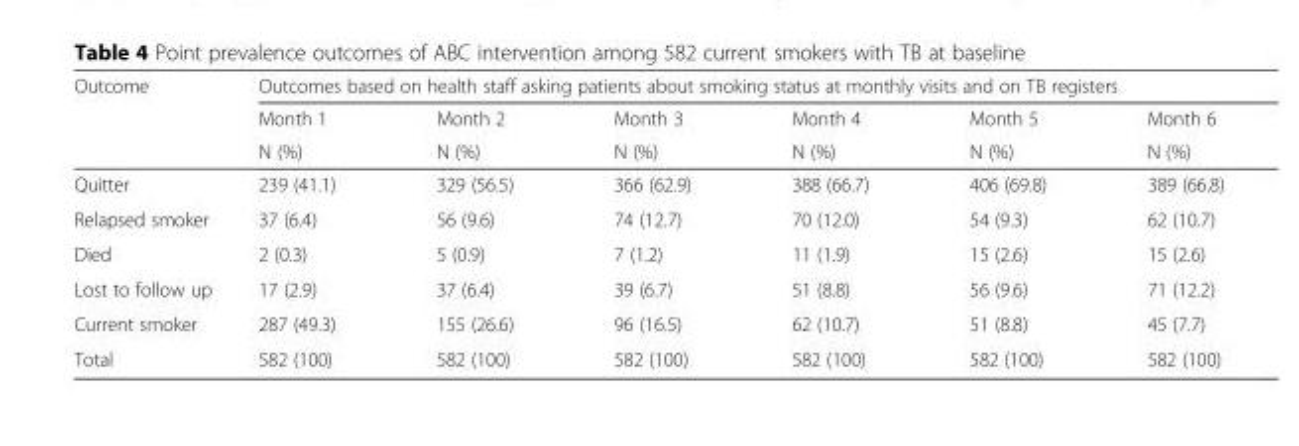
<table><thead><tr><td rowspan="3">Outcome</td><td colspan="6">Outcomes based on health staff asking patients about smoking status at monthly visits and on TB registers</td></tr><tr><td rowspan="2">Month 1 N (%)</td><td rowspan="2">Month 2 N (%)</td><td rowspan="2">Month 3 N (%)</td><td rowspan="2">Month 4 N (%)</td><td rowspan="2">Month 5 N (%)</td><td rowspan="2">Month 6 N (%)</td></tr><tr></tr></thead><tbody><tr><td>Quitter</td><td>239 (41.1)</td><td>329 (56.5)</td><td>366 (62.9)</td><td>388 (66.7)</td><td>406 (69.8)</td><td>389 (66.8)</td></tr><tr><td>Relapsed smoker</td><td>37 (6.4)</td><td>56 (9.6)</td><td>74 (12.7)</td><td>70 (12.0)</td><td>54 (9.3)</td><td>62 (10.7)</td></tr><tr><td>Died</td><td>2 (0.3)</td><td>5 (0.9)</td><td>7 (1.2)</td><td>11 (1.9)</td><td>15 (2.6)</td><td>15 (2.6)</td></tr><tr><td>Lost to follow up</td><td>17 (2.9)</td><td>37 (6.4)</td><td>39 (6.7)</td><td>51 (8.8)</td><td>56 (9.6)</td><td>71 (12.2)</td></tr><tr><td>Current smoker</td><td>287 (49.3)</td><td>155 (26.6)</td><td>96 (16.5)</td><td>62 (10.7)</td><td>51 (8.8)</td><td>45 (7.7)</td></tr><tr><td>Total</td><td>582 (100)</td><td>582 (100)</td><td>582 (100)</td><td>582 (100)</td><td>582 (100)</td><td>582 (100)</td></tr></tbody></table>